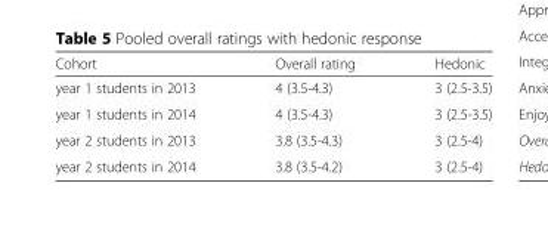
<table><thead><tr><td>Cohort</td><td>Overall rating</td><td>Hedonic</td></tr></thead><tbody><tr><td>year 1 students in 2013</td><td>4 (3.5-4.3)</td><td>3 (2.5-3.5)</td></tr><tr><td>year 1 students in 2014</td><td>4 (3.5-4.3)</td><td>3 (2.5-3.5)</td></tr><tr><td>year 2 students in 2013</td><td>3.8 (3.5-4.3)</td><td>3 (2.5-4)</td></tr><tr><td>year 2 students in 2014</td><td>3.8 (3.5-4.2)</td><td>3 (2.5-4)</td></tr></tbody></table>